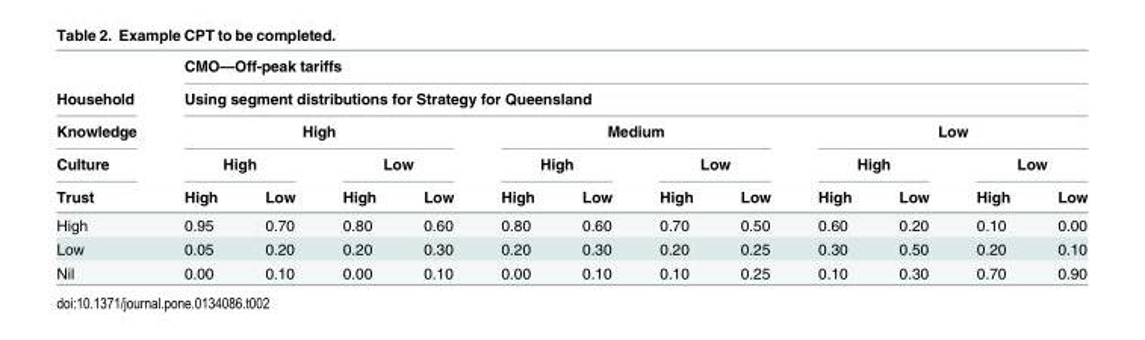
<table><thead><tr><td rowspan="5">Household Knowledge Culture Trust</td><td rowspan="2" colspan="12">CMO—Off-peak tariffs Using segment distributions for Strategy for Queensland</td></tr><tr></tr><tr><td colspan="4">High</td><td colspan="4">Medium</td><td colspan="4">Low</td></tr><tr><td colspan="2">High</td><td colspan="2">Low</td><td colspan="2">High</td><td colspan="2">Low</td><td colspan="2">High</td><td colspan="2">Low</td></tr><tr><td>High</td><td>Low</td><td>High</td><td>Low</td><td>High</td><td>Low</td><td>High</td><td>Low</td><td>High</td><td>Low</td><td>High</td><td>Low</td></tr></thead><tbody><tr><td>High</td><td>0.95</td><td>0.70</td><td>0.80</td><td>0.60</td><td>0.80</td><td>0.60</td><td>0.70</td><td>0.50</td><td>0.60</td><td>0.20</td><td>0.10</td><td>0.00</td></tr><tr><td>Low</td><td>0.05</td><td>0.20</td><td>0.20</td><td>0.30</td><td>0.20</td><td>0.30</td><td>0.20</td><td>0.25</td><td>0.30</td><td>0.50</td><td>0.20</td><td>0.10</td></tr><tr><td>Nil</td><td>0.00</td><td>0.10</td><td>0.00</td><td>0.10</td><td>0.00</td><td>0.10</td><td>0.10</td><td>0.25</td><td>0.10</td><td>0.30</td><td>0.70</td><td>0.90</td></tr></tbody></table>